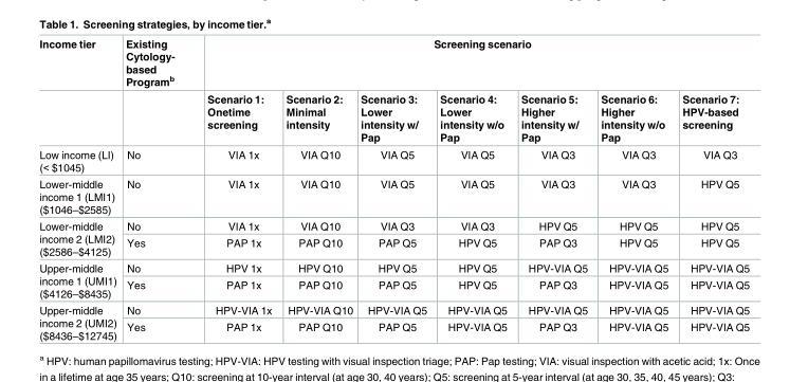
<table><thead><tr><td rowspan="2">Income tier</td><td rowspan="2">Existing Cytology- based Program<sup>b</sup></td><td colspan="7">Screening scenario</td></tr><tr><td>Scenario 1: Onetime screening</td><td>Scenario 2: Minimal intensity</td><td>Scenario 3: Lower intensity w/ Pap</td><td>Scenario 4: Lower intensity w/o Pap</td><td>Scenario 5: Higher intensity w/ Pap</td><td>Scenario 6: Higher intensity w/o Pap</td><td>Scenario 7: HPV-based screening</td></tr></thead><tbody><tr><td>Low income (LI) (&lt; $1045)</td><td>No</td><td>VIA 1x</td><td>VIA Q10</td><td>VIA Q5</td><td>VIA Q5</td><td>VIA Q3</td><td>VIA Q3</td><td>VIA Q3</td></tr><tr><td>Lower-middle income 1 (LMI1) ($1046–$2585)</td><td>No</td><td>VIA 1x</td><td>VIA Q10</td><td>VIA Q5</td><td>VIA Q5</td><td>VIA Q3</td><td>VIA Q3</td><td>HPV Q5</td></tr><tr><td rowspan="2">Lower-middle income 2 (LMI2) ($2586–$4125)</td><td>No</td><td>VIA 1x</td><td>VIA Q10</td><td>VIA Q3</td><td>VIA Q3</td><td>HPV Q5</td><td>HPV Q5</td><td>HPV Q5</td></tr><tr><td>Yes</td><td>PAP 1x</td><td>PAP Q10</td><td>PAP Q5</td><td>HPV Q5</td><td>PAP Q3</td><td>HPV Q5</td><td>HPV Q5</td></tr><tr><td rowspan="2">Upper-middle income 1 (UMI1) ($4126–$8435)</td><td>No</td><td>HPV 1x</td><td>HPV Q10</td><td>HPV Q5</td><td>HPV Q5</td><td>HPV-VIA Q5</td><td>HPV-VIA Q5</td><td>HPV-VIA Q5</td></tr><tr><td>Yes</td><td>PAP 1x</td><td>PAP Q10</td><td>PAP Q5</td><td>HPV Q5</td><td>PAP Q3</td><td>HPV-VIA Q5</td><td>HPV-VIA Q5</td></tr><tr><td rowspan="2">Upper-middle income 2 (UMI2) ($8436–$12745)</td><td>No</td><td>HPV-VIA 1x</td><td>HPV-VIA Q10</td><td>HPV-VIA Q5</td><td>HPV-VIA Q5</td><td>HPV-VIA Q5</td><td>HPV-VIA Q5</td><td>HPV-VIA Q5</td></tr><tr><td>Yes</td><td>PAP 1x</td><td>PAP Q10</td><td>PAP Q5</td><td>HPV-VIA Q5</td><td>PAP Q3</td><td>HPV-VIA Q5</td><td>HPV-VIA Q5</td></tr></tbody></table>